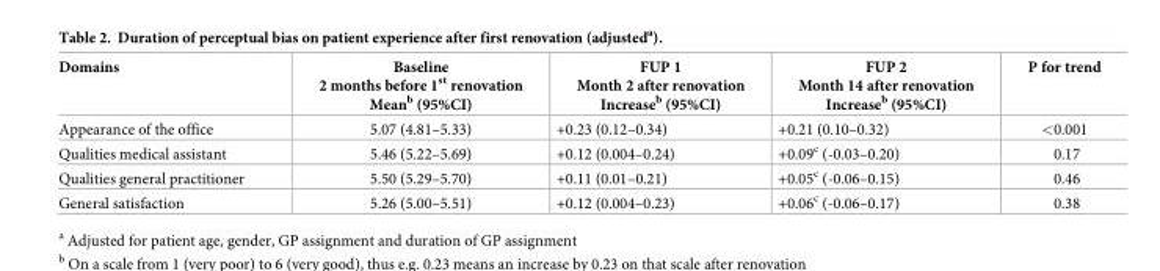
<table><thead><tr><td>Domains</td><td>Baseline 2 months before 1<sup>st</sup> renovation Mean<sup>b</sup> (95%CI)</td><td>FUP 1 Month 2 after renovation Increase<sup>b</sup> (95%CI)</td><td>FUP 2 Month 14 after renovation Increase<sup>b</sup> (95%CI)</td><td>P for trend</td></tr></thead><tbody><tr><td>Appearance of the office</td><td>5.07 (4.81–5.33)</td><td>+0.23 (0.12–0.34)</td><td>+0.21 (0.10–0.32)</td><td>&lt;0.001</td></tr><tr><td>Qualities medical assistant</td><td>5.46 (5.22–5.69)</td><td>+0.12 (0.004–0.24)</td><td>+0.09<sup>c</sup> (-0.03–0.20)</td><td>0.17</td></tr><tr><td>Qualities general practitioner</td><td>5.50 (5.29–5.70)</td><td>+0.11 (0.01–0.21)</td><td>+0.05<sup>c</sup> (-0.06–0.15)</td><td>0.46</td></tr><tr><td>General satisfaction</td><td>5.26 (5.00–5.51)</td><td>+0.12 (0.004–0.23)</td><td>+0.06<sup>c</sup> (-0.06–0.17)</td><td>0.38</td></tr></tbody></table>